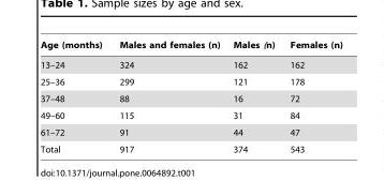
<table><thead><tr><td>Age (months)</td><td>Males and females (n)</td><td>Males (n)</td><td>Females (n)</td></tr></thead><tbody><tr><td>13–24</td><td>324</td><td>162</td><td>162</td></tr><tr><td>25–36</td><td>299</td><td>121</td><td>178</td></tr><tr><td>37–48</td><td>88</td><td>16</td><td>72</td></tr><tr><td>49–60</td><td>115</td><td>31</td><td>84</td></tr><tr><td>61–72</td><td>91</td><td>44</td><td>47</td></tr><tr><td>Total</td><td>917</td><td>374</td><td>543</td></tr></tbody></table>